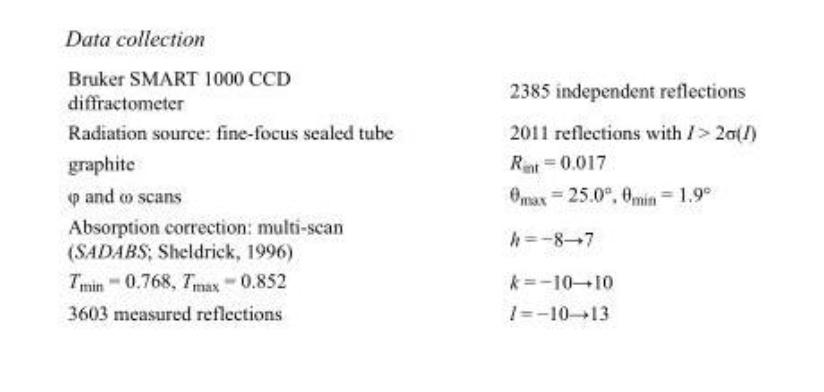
<table><tbody><tr><td>Bruker SMART 1000 CCD diffractometer</td><td>2385 independent reflections</td></tr><tr><td>Radiation source: fine-focus sealed tube</td><td>2011 reflections with I &gt; 2σ(I)</td></tr><tr><td>graphite</td><td>R<sub>int</sub> = 0.017</td></tr><tr><td>φ and ω scans</td><td>θ<sub>max</sub> = 25.0°, θ<sub>min</sub> = 1.9°</td></tr><tr><td>Absorption correction: multi-scan (SADABS; Sheldrick, 1996)</td><td>h = −8→7</td></tr><tr><td>T<sub>min</sub> = 0.768, T<sub>max</sub> = 0.852</td><td>k = −10→10</td></tr><tr><td>3603 measured reflections</td><td>l = −10→13</td></tr></tbody></table>